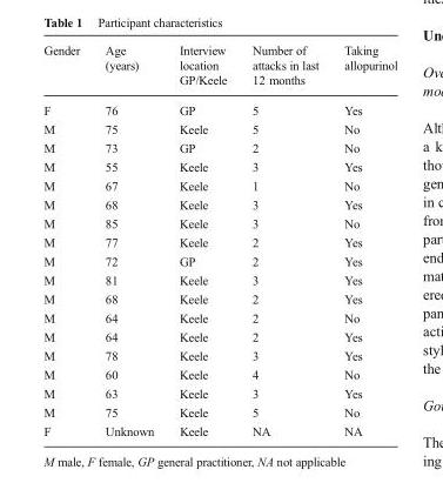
<table><thead><tr><td>Gender</td><td>Age (years)</td><td>Interview location GP/Keele</td><td>Number of attacks in last 12 months</td><td>Taking allopurinol</td></tr></thead><tbody><tr><td>F</td><td>76</td><td>GP</td><td>5</td><td>Yes</td></tr><tr><td>M</td><td>75</td><td>Keele</td><td>5</td><td>No</td></tr><tr><td>M</td><td>73</td><td>GP</td><td>2</td><td>No</td></tr><tr><td>M</td><td>55</td><td>Keele</td><td>3</td><td>Yes</td></tr><tr><td>M</td><td>67</td><td>Keele</td><td>1</td><td>No</td></tr><tr><td>M</td><td>68</td><td>Keele</td><td>3</td><td>Yes</td></tr><tr><td>M</td><td>85</td><td>Keele</td><td>3</td><td>No</td></tr><tr><td>M</td><td>77</td><td>Keele</td><td>2</td><td>Yes</td></tr><tr><td>M</td><td>72</td><td>GP</td><td>2</td><td>Yes</td></tr><tr><td>M</td><td>81</td><td>Keele</td><td>3</td><td>Yes</td></tr><tr><td>M</td><td>68</td><td>Keele</td><td>2</td><td>Yes</td></tr><tr><td>M</td><td>64</td><td>Keele</td><td>2</td><td>No</td></tr><tr><td>M</td><td>64</td><td>Keele</td><td>2</td><td>Yes</td></tr><tr><td>M</td><td>78</td><td>Keele</td><td>3</td><td>Yes</td></tr><tr><td>M</td><td>60</td><td>Keele</td><td>4</td><td>No</td></tr><tr><td>M</td><td>63</td><td>Keele</td><td>3</td><td>Yes</td></tr><tr><td>M</td><td>75</td><td>Keele</td><td>5</td><td>No</td></tr><tr><td>F</td><td>Unknown</td><td>Keele</td><td>NA</td><td>NA</td></tr></tbody></table>